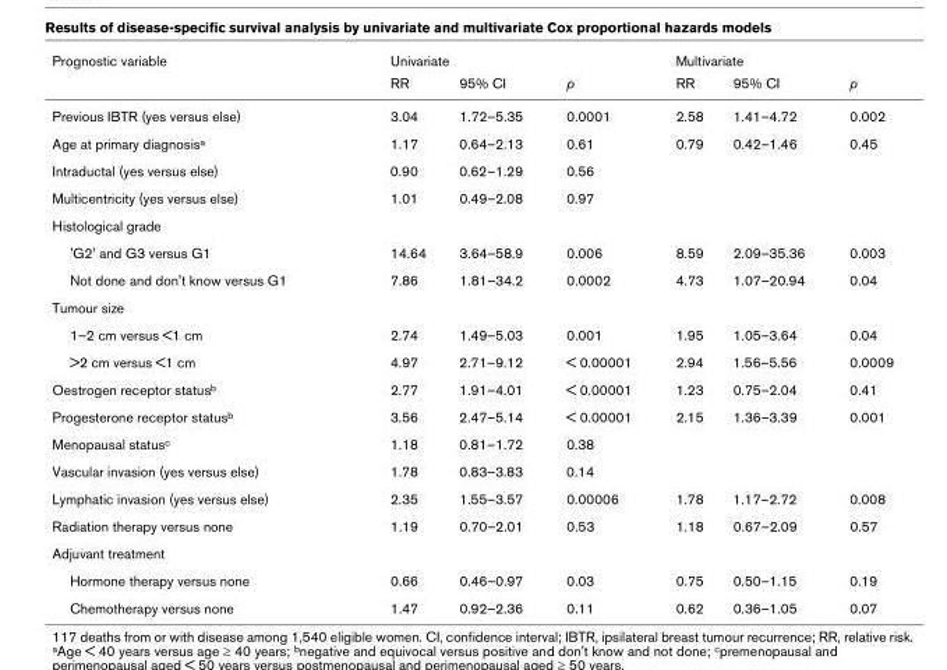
<table><thead><tr><td rowspan="2">Prognostic variable</td><td colspan="3">Univariate</td><td colspan="3">Multivariate</td></tr><tr><td>RR</td><td>95% CI</td><td>p</td><td>RR</td><td>95% CI</td><td>p</td></tr></thead><tbody><tr><td>Previous IBTR (yes versus else)</td><td>3.04</td><td>1.72–5.35</td><td>0.0001</td><td>2.58</td><td>1.41–4.72</td><td>0.002</td></tr><tr><td>Age at primary diagnosisa</td><td>1.17</td><td>0.64–2.13</td><td>0.61</td><td>0.79</td><td>0.42–1.46</td><td>0.45</td></tr><tr><td>Intraductal (yes versus else)</td><td>0.90</td><td>0.62–1.29</td><td>0.56</td><td></td><td></td><td></td></tr><tr><td>Multicentricity (yes versus else)</td><td>1.01</td><td>0.49–2.08</td><td>0.97</td><td></td><td></td><td></td></tr><tr><td colspan="7">Histological grade</td></tr><tr><td>&#x27;G2&#x27; and G3 versus G1</td><td>14.64</td><td>3.64–58.9</td><td>0.006</td><td>8.59</td><td>2.09–35.36</td><td>0.003</td></tr><tr><td>Not done and don&#x27;t know versus G1</td><td>7.86</td><td>1.81–34.2</td><td>0.0002</td><td>4.73</td><td>1.07–20.94</td><td>0.04</td></tr><tr><td colspan="7">Tumour size</td></tr><tr><td>1–2 cm versus &lt;1 cm</td><td>2.74</td><td>1.49–5.03</td><td>0.001</td><td>1.95</td><td>1.05–3.64</td><td>0.04</td></tr><tr><td>&gt;2 cm versus &lt;1 cm</td><td>4.97</td><td>2.71–9.12</td><td>&lt; 0.00001</td><td>2.94</td><td>1.56–5.56</td><td>0.0009</td></tr><tr><td>Oestrogen receptor statusb</td><td>2.77</td><td>1.91–4.01</td><td>&lt; 0.00001</td><td>1.23</td><td>0.75–2.04</td><td>0.41</td></tr><tr><td>Progesterone receptor statusb</td><td>3.56</td><td>2.47–5.14</td><td>&lt; 0.00001</td><td>2.15</td><td>1.36–3.39</td><td>0.001</td></tr><tr><td>Menopausal statusc</td><td>1.18</td><td>0.81–1.72</td><td>0.38</td><td></td><td></td><td></td></tr><tr><td>Vascular invasion (yes versus else)</td><td>1.78</td><td>0.83–3.83</td><td>0.14</td><td></td><td></td><td></td></tr><tr><td>Lymphatic invasion (yes versus else)</td><td>2.35</td><td>1.55–3.57</td><td>0.00006</td><td>1.78</td><td>1.17–2.72</td><td>0.008</td></tr><tr><td>Radiation therapy versus none</td><td>1.19</td><td>0.70–2.01</td><td>0.53</td><td>1.18</td><td>0.67–2.09</td><td>0.57</td></tr><tr><td colspan="7">Adjuvant treatment</td></tr><tr><td>Hormone therapy versus none</td><td>0.66</td><td>0.46–0.97</td><td>0.03</td><td>0.75</td><td>0.50–1.15</td><td>0.19</td></tr><tr><td>Chemotherapy versus none</td><td>1.47</td><td>0.92–2.36</td><td>0.11</td><td>0.62</td><td>0.36–1.05</td><td>0.07</td></tr></tbody></table>